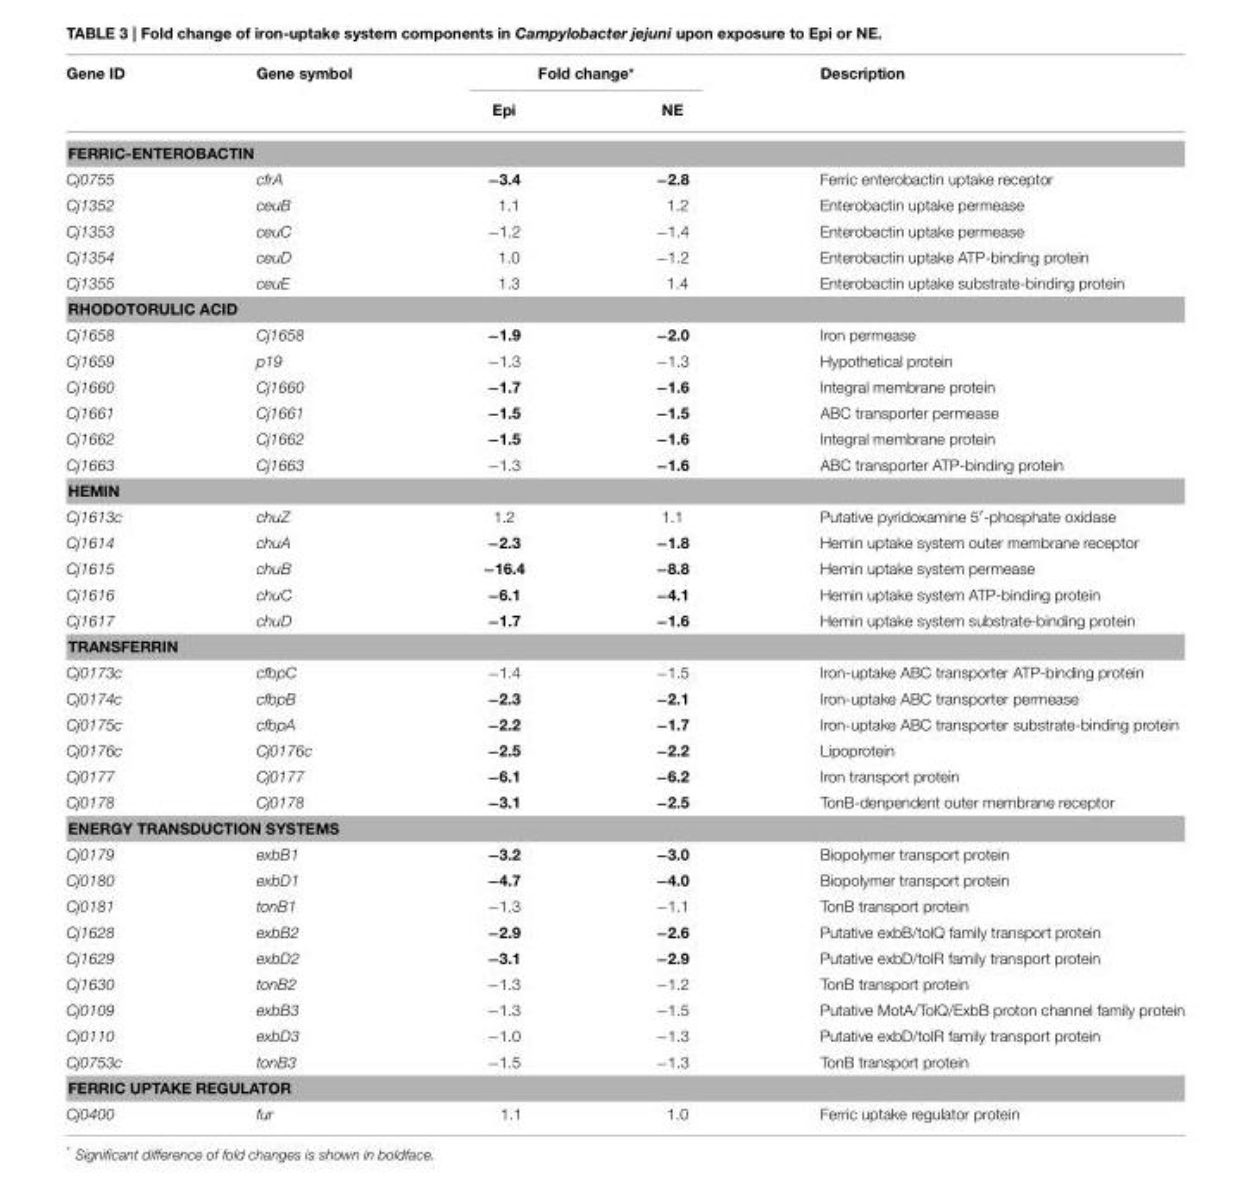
<table><thead><tr><td rowspan="2">Gene ID</td><td rowspan="2">Gene symbol</td><td colspan="2">Fold change*</td><td rowspan="2">Description</td></tr><tr><td>Epi</td><td>NE</td></tr></thead><tbody><tr><td colspan="5">FERRIC-ENTEROBACTIN</td></tr><tr><td>Cj0755</td><td>cfrA</td><td>−3.4</td><td>−2.8</td><td>Ferric enterobactin uptake receptor</td></tr><tr><td>Cj1352</td><td>ceuB</td><td>1.1</td><td>1.2</td><td>Enterobactin uptake permease</td></tr><tr><td>Cj1353</td><td>ceuC</td><td>−1.2</td><td>−1.4</td><td>Enterobactin uptake permease</td></tr><tr><td>Cj1354</td><td>ceuD</td><td>1.0</td><td>−1.2</td><td>Enterobactin uptake ATP-binding protein</td></tr><tr><td>Cj1355</td><td>ceuE</td><td>1.3</td><td>1.4</td><td>Enterobactin uptake substrate-binding protein</td></tr><tr><td colspan="5">RHODOTORULIC ACID</td></tr><tr><td>Cj1658</td><td>Cj1658</td><td>−1.9</td><td>−2.0</td><td>Iron permease</td></tr><tr><td>Cj1659</td><td>p19</td><td>−1.3</td><td>−1.3</td><td>Hypothetical protein</td></tr><tr><td>Cj1660</td><td>Cj1660</td><td>−1.7</td><td>−1.6</td><td>Integral membrane protein</td></tr><tr><td>Cj1661</td><td>Cj1661</td><td>−1.5</td><td>−1.5</td><td>ABC transporter permease</td></tr><tr><td>Cj1662</td><td>Cj1662</td><td>−1.5</td><td>−1.6</td><td>Integral membrane protein</td></tr><tr><td>Cj1663</td><td>Cj1663</td><td>−1.3</td><td>−1.6</td><td>ABC transporter ATP-binding protein</td></tr><tr><td colspan="5">HEMIN</td></tr><tr><td>Cj1613c</td><td>chuZ</td><td>1.2</td><td>1.1</td><td>Putative pyridoxamine 5′-phosphate oxidase</td></tr><tr><td>Cj1614</td><td>chuA</td><td>−2.3</td><td>−1.8</td><td>Hemin uptake system outer membrane receptor</td></tr><tr><td>Cj1615</td><td>chuB</td><td>−16.4</td><td>−8.8</td><td>Hemin uptake system permease</td></tr><tr><td>Cj1616</td><td>chuC</td><td>−6.1</td><td>−4.1</td><td>Hemin uptake system ATP-binding protein</td></tr><tr><td>Cj1617</td><td>chuD</td><td>−1.7</td><td>−1.6</td><td>Hemin uptake system substrate-binding protein</td></tr><tr><td colspan="5">TRANSFERRIN</td></tr><tr><td>Cj0173c</td><td>cfbpC</td><td>−1.4</td><td>−1.5</td><td>Iron-uptake ABC transporter ATP-binding protein</td></tr><tr><td>Cj0174c</td><td>cfbpB</td><td>−2.3</td><td>−2.1</td><td>Iron-uptake ABC transporter permease</td></tr><tr><td>Cj0175c</td><td>cfbpA</td><td>−2.2</td><td>−1.7</td><td>Iron-uptake ABC transporter substrate-binding protein</td></tr><tr><td>Cj0176c</td><td>Cj0176c</td><td>−2.5</td><td>−2.2</td><td>Lipoprotein</td></tr><tr><td>Cj0177</td><td>Cj0177</td><td>−6.1</td><td>−6.2</td><td>Iron transport protein</td></tr><tr><td>Cj0178</td><td>Cj0178</td><td>−3.1</td><td>−2.5</td><td>TonB-denpendent outer membrane receptor</td></tr><tr><td colspan="5">ENERGY TRANSDUCTION SYSTEMS</td></tr><tr><td>Cj0179</td><td>exbB1</td><td>−3.2</td><td>−3.0</td><td>Biopolymer transport protein</td></tr><tr><td>Cj0180</td><td>exbD1</td><td>−4.7</td><td>−4.0</td><td>Biopolymer transport protein</td></tr><tr><td>Cj0181</td><td>tonB1</td><td>−1.3</td><td>−1.1</td><td>TonB transport protein</td></tr><tr><td>Cj1628</td><td>exbB2</td><td>−2.9</td><td>−2.6</td><td>Putative exbB/tolQ family transport protein</td></tr><tr><td>Cj1629</td><td>exbD2</td><td>−3.1</td><td>−2.9</td><td>Putative exbD/tolR family transport protein</td></tr><tr><td>Cj1630</td><td>tonB2</td><td>−1.3</td><td>−1.2</td><td>TonB transport protein</td></tr><tr><td>Cj0109</td><td>exbB3</td><td>−1.3</td><td>−1.5</td><td>Putative MotA/TolQ/ExbB proton channel family protein</td></tr><tr><td>Cj0110</td><td>exbD3</td><td>−1.0</td><td>−1.3</td><td>Putative exbD/tolR family transport protein</td></tr><tr><td>Cj0753c</td><td>tonB3</td><td>−1.5</td><td>−1.3</td><td>TonB transport protein</td></tr><tr><td colspan="5">FERRIC UPTAKE REGULATOR</td></tr><tr><td>Cj0400</td><td>fur</td><td>1.1</td><td>1.0</td><td>Ferric uptake regulator protein</td></tr></tbody></table>